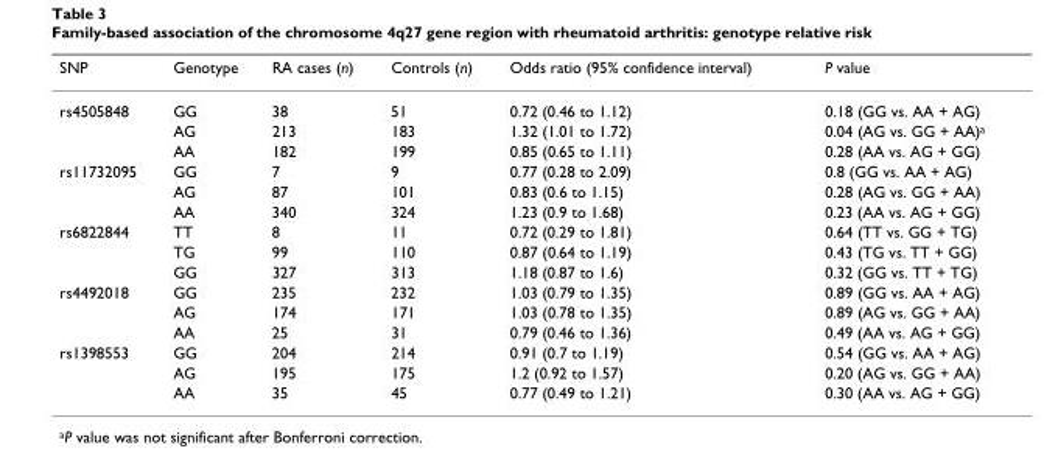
<table><thead><tr><td>SNP</td><td>Genotype</td><td>RA cases (n)</td><td>Controls (n)</td><td>Odds ratio (95% confidence interval)</td><td>P value</td></tr></thead><tbody><tr><td rowspan="3">rs4505848</td><td>GG</td><td>38</td><td>51</td><td>0.72 (0.46 to 1.12)</td><td>0.18 (GG vs. AA + AG)</td></tr><tr><td>AG</td><td>213</td><td>183</td><td>1.32 (1.01 to 1.72)</td><td>0.04 (AG vs. GG + AA)<sup>a</sup></td></tr><tr><td>AA</td><td>182</td><td>199</td><td>0.85 (0.65 to 1.11)</td><td>0.28 (AA vs. AG + GG)</td></tr><tr><td rowspan="3">rs11732095</td><td>GG</td><td>7</td><td>9</td><td>0.77 (0.28 to 2.09)</td><td>0.8 (GG vs. AA + AG)</td></tr><tr><td>AG</td><td>87</td><td>101</td><td>0.83 (0.6 to 1.15)</td><td>0.28 (AG vs. GG + AA)</td></tr><tr><td>AA</td><td>340</td><td>324</td><td>1.23 (0.9 to 1.68)</td><td>0.23 (AA vs. AG + GG)</td></tr><tr><td rowspan="3">rs6822844</td><td>TT</td><td>8</td><td>11</td><td>0.72 (0.29 to 1.81)</td><td>0.64 (TT vs. GG + TG)</td></tr><tr><td>TG</td><td>99</td><td>110</td><td>0.87 (0.64 to 1.19)</td><td>0.43 (TG vs. TT + GG)</td></tr><tr><td>GG</td><td>327</td><td>313</td><td>1.18 (0.87 to 1.6)</td><td>0.32 (GG vs. TT + TG)</td></tr><tr><td rowspan="3">rs4492018</td><td>GG</td><td>235</td><td>232</td><td>1.03 (0.79 to 1.35)</td><td>0.89 (GG vs. AA + AG)</td></tr><tr><td>AG</td><td>174</td><td>171</td><td>1.03 (0.78 to 1.35)</td><td>0.89 (AG vs. GG + AA)</td></tr><tr><td>AA</td><td>25</td><td>31</td><td>0.79 (0.46 to 1.36)</td><td>0.49 (AA vs. AG + GG)</td></tr><tr><td rowspan="3">rs1398553</td><td>GG</td><td>204</td><td>214</td><td>0.91 (0.7 to 1.19)</td><td>0.54 (GG vs. AA + AG)</td></tr><tr><td>AG</td><td>195</td><td>175</td><td>1.2 (0.92 to 1.57)</td><td>0.20 (AG vs. GG + AA)</td></tr><tr><td>AA</td><td>35</td><td>45</td><td>0.77 (0.49 to 1.21)</td><td>0.30 (AA vs. AG + GG)</td></tr></tbody></table>